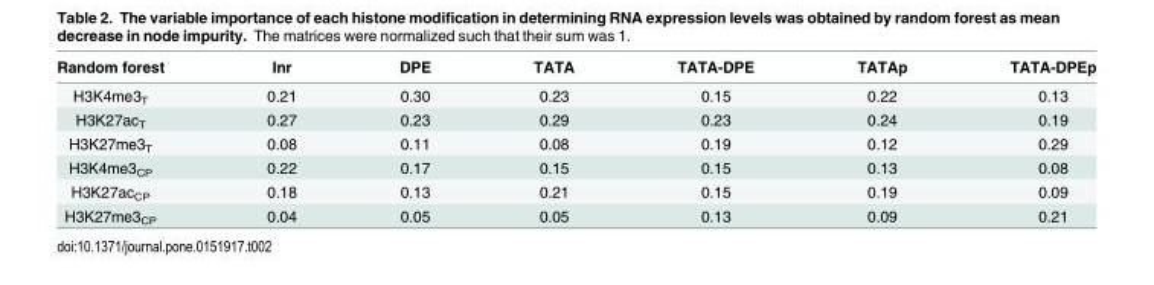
<table><thead><tr><td>Random forest</td><td>Inr</td><td>DPE</td><td>TATA</td><td>TATA-DPE</td><td>TATAp</td><td>TATA-DPEp</td></tr></thead><tbody><tr><td>H3K4me3<sub>T</sub></td><td>0.21</td><td>0.30</td><td>0.23</td><td>0.15</td><td>0.22</td><td>0.13</td></tr><tr><td>H3K27ac<sub>T</sub></td><td>0.27</td><td>0.23</td><td>0.29</td><td>0.23</td><td>0.24</td><td>0.19</td></tr><tr><td>H3K27me3<sub>T</sub></td><td>0.08</td><td>0.11</td><td>0.08</td><td>0.19</td><td>0.12</td><td>0.29</td></tr><tr><td>H3K4me3<sub>CP</sub></td><td>0.22</td><td>0.17</td><td>0.15</td><td>0.15</td><td>0.13</td><td>0.08</td></tr><tr><td>H3K27ac<sub>CP</sub></td><td>0.18</td><td>0.13</td><td>0.21</td><td>0.15</td><td>0.19</td><td>0.09</td></tr><tr><td>H3K27me3<sub>CP</sub></td><td>0.04</td><td>0.05</td><td>0.05</td><td>0.13</td><td>0.09</td><td>0.21</td></tr></tbody></table>